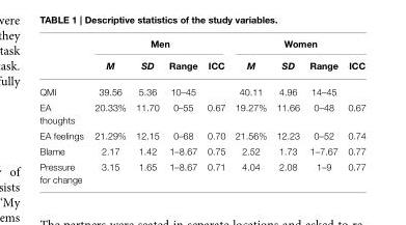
<table><thead><tr><td rowspan="2"></td><td colspan="4">Men</td><td colspan="4">Women</td></tr><tr><td>M</td><td>SD</td><td>Range</td><td>ICC</td><td>M</td><td>SD</td><td>Range</td><td>ICC</td></tr></thead><tbody><tr><td>QMI</td><td>39.56</td><td>5.36</td><td>10–45</td><td></td><td>40.11</td><td>4.96</td><td>14–45</td><td></td></tr><tr><td>EA thoughts</td><td>20.33%</td><td>11.70</td><td>0–55</td><td>0.67</td><td>19.27%</td><td>11.66</td><td>0–48</td><td>0.67</td></tr><tr><td>EA feelings</td><td>21.29%</td><td>12.15</td><td>0–68</td><td>0.70</td><td>21.56%</td><td>12.23</td><td>0–52</td><td>0.74</td></tr><tr><td>Blame</td><td>2.17</td><td>1.42</td><td>1–8.67</td><td>0.75</td><td>2.52</td><td>1.73</td><td>1–7.67</td><td>0.77</td></tr><tr><td>Pressure for change</td><td>3.15</td><td>1.65</td><td>1–8.67</td><td>0.71</td><td>4.04</td><td>2.08</td><td>1–9</td><td>0.77</td></tr></tbody></table>